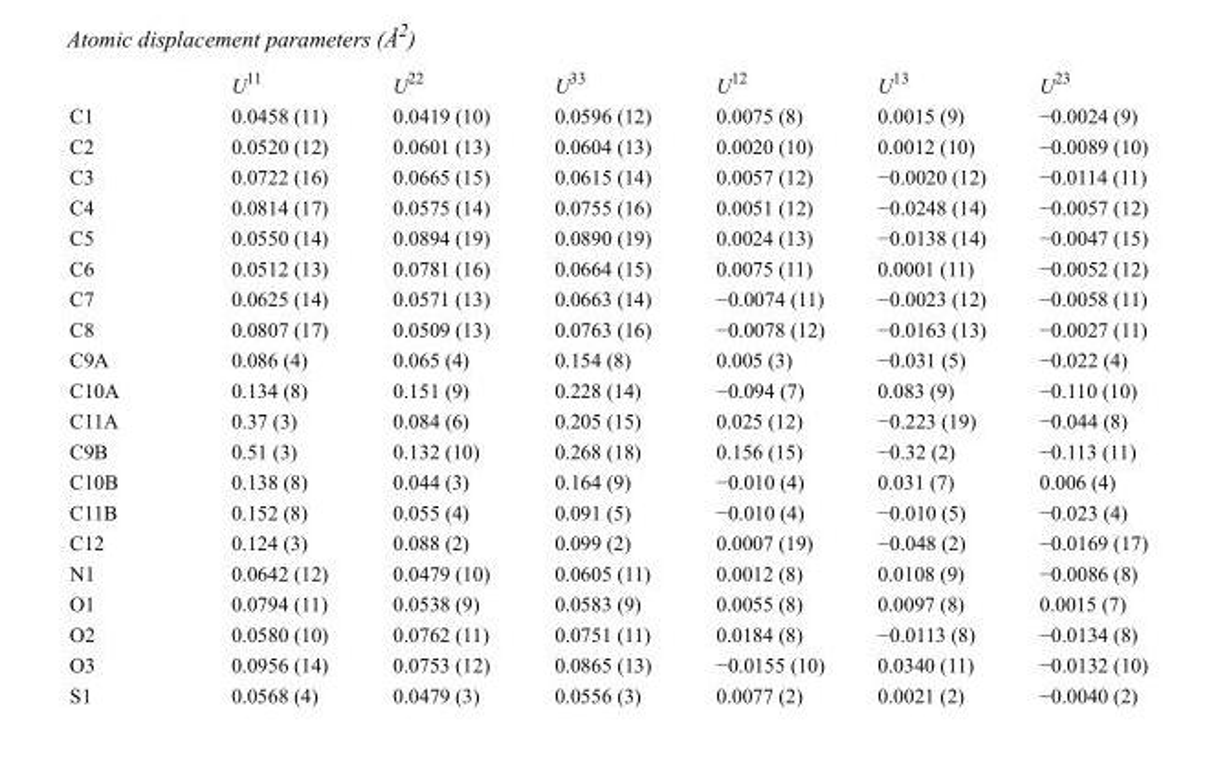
<table><thead><tr><td></td><td>U<sup>11</sup></td><td>U<sup>22</sup></td><td>U<sup>33</sup></td><td>U<sup>12</sup></td><td>U<sup>13</sup></td><td>U<sup>23</sup></td></tr></thead><tbody><tr><td>C1</td><td>0.0458 (11)</td><td>0.0419 (10)</td><td>0.0596 (12)</td><td>0.0075 (8)</td><td>0.0015 (9)</td><td>−0.0024 (9)</td></tr><tr><td>C2</td><td>0.0520 (12)</td><td>0.0601 (13)</td><td>0.0604 (13)</td><td>0.0020 (10)</td><td>0.0012 (10)</td><td>−0.0089 (10)</td></tr><tr><td>C3</td><td>0.0722 (16)</td><td>0.0665 (15)</td><td>0.0615 (14)</td><td>0.0057 (12)</td><td>−0.0020 (12)</td><td>−0.0114 (11)</td></tr><tr><td>C4</td><td>0.0814 (17)</td><td>0.0575 (14)</td><td>0.0755 (16)</td><td>0.0051 (12)</td><td>−0.0248 (14)</td><td>−0.0057 (12)</td></tr><tr><td>C5</td><td>0.0550 (14)</td><td>0.0894 (19)</td><td>0.0890 (19)</td><td>0.0024 (13)</td><td>−0.0138 (14)</td><td>−0.0047 (15)</td></tr><tr><td>C6</td><td>0.0512 (13)</td><td>0.0781 (16)</td><td>0.0664 (15)</td><td>0.0075 (11)</td><td>0.0001 (11)</td><td>−0.0052 (12)</td></tr><tr><td>C7</td><td>0.0625 (14)</td><td>0.0571 (13)</td><td>0.0663 (14)</td><td>−0.0074 (11)</td><td>−0.0023 (12)</td><td>−0.0058 (11)</td></tr><tr><td>C8</td><td>0.0807 (17)</td><td>0.0509 (13)</td><td>0.0763 (16)</td><td>−0.0078 (12)</td><td>−0.0163 (13)</td><td>−0.0027 (11)</td></tr><tr><td>C9A</td><td>0.086 (4)</td><td>0.065 (4)</td><td>0.154 (8)</td><td>0.005 (3)</td><td>−0.031 (5)</td><td>−0.022 (4)</td></tr><tr><td>C10A</td><td>0.134 (8)</td><td>0.151 (9)</td><td>0.228 (14)</td><td>−0.094 (7)</td><td>0.083 (9)</td><td>−0.110 (10)</td></tr><tr><td>C11A</td><td>0.37 (3)</td><td>0.084 (6)</td><td>0.205 (15)</td><td>0.025 (12)</td><td>−0.223 (19)</td><td>−0.044 (8)</td></tr><tr><td>C9B</td><td>0.51 (3)</td><td>0.132 (10)</td><td>0.268 (18)</td><td>0.156 (15)</td><td>−0.32 (2)</td><td>−0.113 (11)</td></tr><tr><td>C10B</td><td>0.138 (8)</td><td>0.044 (3)</td><td>0.164 (9)</td><td>−0.010 (4)</td><td>0.031 (7)</td><td>0.006 (4)</td></tr><tr><td>C11B</td><td>0.152 (8)</td><td>0.055 (4)</td><td>0.091 (5)</td><td>−0.010 (4)</td><td>−0.010 (5)</td><td>−0.023 (4)</td></tr><tr><td>C12</td><td>0.124 (3)</td><td>0.088 (2)</td><td>0.099 (2)</td><td>0.0007 (19)</td><td>−0.048 (2)</td><td>−0.0169 (17)</td></tr><tr><td>N1</td><td>0.0642 (12)</td><td>0.0479 (10)</td><td>0.0605 (11)</td><td>0.0012 (8)</td><td>0.0108 (9)</td><td>−0.0086 (8)</td></tr><tr><td>O1</td><td>0.0794 (11)</td><td>0.0538 (9)</td><td>0.0583 (9)</td><td>0.0055 (8)</td><td>0.0097 (8)</td><td>0.0015 (7)</td></tr><tr><td>O2</td><td>0.0580 (10)</td><td>0.0762 (11)</td><td>0.0751 (11)</td><td>0.0184 (8)</td><td>−0.0113 (8)</td><td>−0.0134 (8)</td></tr><tr><td>O3</td><td>0.0956 (14)</td><td>0.0753 (12)</td><td>0.0865 (13)</td><td>−0.0155 (10)</td><td>0.0340 (11)</td><td>−0.0132 (10)</td></tr><tr><td>S1</td><td>0.0568 (4)</td><td>0.0479 (3)</td><td>0.0556 (3)</td><td>0.0077 (2)</td><td>0.0021 (2)</td><td>−0.0040 (2)</td></tr></tbody></table>